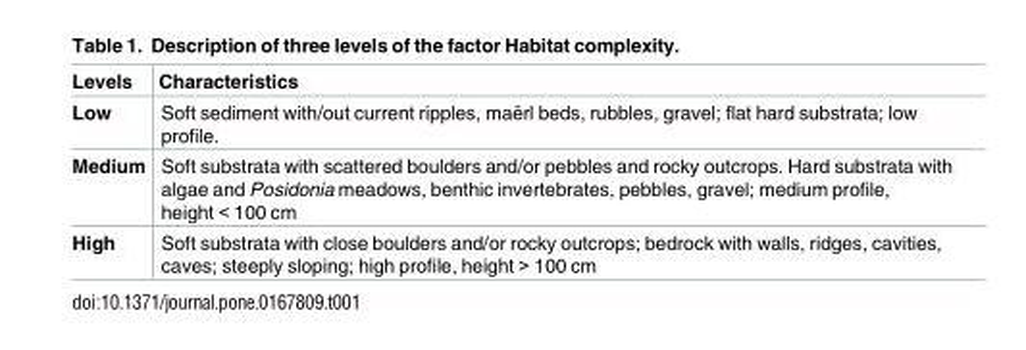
<table><thead><tr><td>Levels</td><td>Characteristics</td></tr></thead><tbody><tr><td>Low</td><td>Soft sediment with/out current ripples, mae¨rl beds, rubbles, gravel; flat hard substrata; low profile.</td></tr><tr><td>Medium</td><td>Soft substrata with scattered boulders and/or pebbles and rocky outcrops. Hard substrata with algae and Posidonia meadows, benthic invertebrates, pebbles, gravel; medium profile, height &lt; 100 cm</td></tr><tr><td>High</td><td>Soft substrata with close boulders and/or rocky outcrops; bedrock with walls, ridges, cavities, caves; steeply sloping; high profile, height &gt; 100 cm</td></tr></tbody></table>